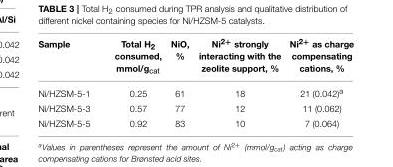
<table><thead><tr><td>Sample</td><td>Total H<sub>2</sub> consumed, mmol/g<sub>cat</sub></td><td>NiO, %</td><td>Ni<sup>2+</sup> strongly interacting with the zeolite support, %</td><td>Ni<sup>2+</sup> as charge compensating cations, %</td></tr></thead><tbody><tr><td>Ni/HZSM-5-1</td><td>0.25</td><td>61</td><td>18</td><td>21 (0.042)<sup>a</sup></td></tr><tr><td>Ni/HZSM-5-3</td><td>0.57</td><td>77</td><td>12</td><td>11 (0.062)</td></tr><tr><td>Ni/HZSM-5-5</td><td>0.92</td><td>83</td><td>10</td><td>7 (0.064)</td></tr></tbody></table>